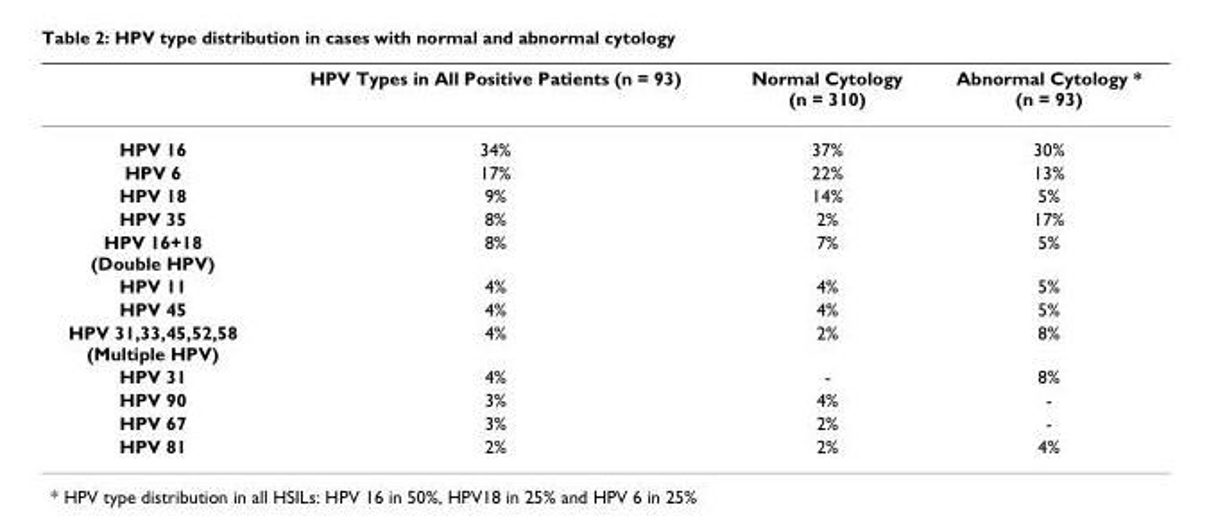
<table><thead><tr><td></td><td>HPV Types in All Positive Patients (n = 93)</td><td>Normal Cytology (n = 310)</td><td>Abnormal Cytology * (n = 93)</td></tr></thead><tbody><tr><td>HPV 16</td><td>34%</td><td>37%</td><td>30%</td></tr><tr><td>HPV 6</td><td>17%</td><td>22%</td><td>13%</td></tr><tr><td>HPV 18</td><td>9%</td><td>14%</td><td>5%</td></tr><tr><td>HPV 35</td><td>8%</td><td>2%</td><td>17%</td></tr><tr><td>HPV 16+18 (Double HPV)</td><td>8%</td><td>7%</td><td>5%</td></tr><tr><td>HPV 11</td><td>4%</td><td>4%</td><td>5%</td></tr><tr><td>HPV 45</td><td>4%</td><td>4%</td><td>5%</td></tr><tr><td>HPV 31,33,45,52,58 (Multiple HPV)</td><td>4%</td><td>2%</td><td>8%</td></tr><tr><td>HPV 31</td><td>4%</td><td>-</td><td>8%</td></tr><tr><td>HPV 90</td><td>3%</td><td>4%</td><td>-</td></tr><tr><td>HPV 67</td><td>3%</td><td>2%</td><td>-</td></tr><tr><td>HPV 81</td><td>2%</td><td>2%</td><td>4%</td></tr></tbody></table>